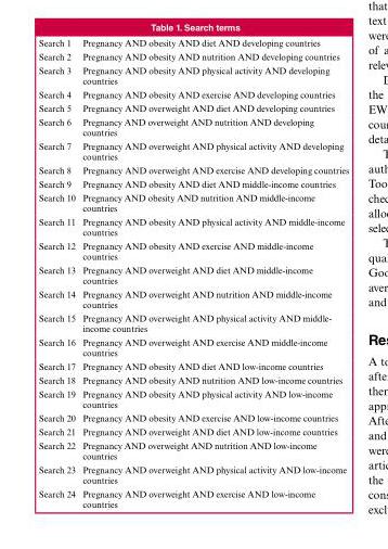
<table><tbody><tr><td>Search 1</td><td>Pregnancy AND obesity AND diet AND developing countries</td></tr><tr><td>Search 2</td><td>Pregnancy AND obesity AND nutrition AND developing countries</td></tr><tr><td>Search 3</td><td>Pregnancy AND obesity AND physical activity AND developing countries</td></tr><tr><td>Search 4</td><td>Pregnancy AND obesity AND exercise AND developing countries</td></tr><tr><td>Search 5</td><td>Pregnancy AND overweight AND diet AND developing countries</td></tr><tr><td>Search 6</td><td>Pregnancy AND overweight AND nutrition AND developing countries</td></tr><tr><td>Search 7</td><td>Pregnancy AND overweight AND physical activity AND developing countries</td></tr><tr><td>Search 8</td><td>Pregnancy AND overweight AND exercise AND developing countries</td></tr><tr><td>Search 9</td><td>Pregnancy AND obesity AND diet AND middle-income countries</td></tr><tr><td>Search 10</td><td>Pregnancy AND obesity AND nutrition AND middle-income countries</td></tr><tr><td>Search 11</td><td>Pregnancy AND obesity AND physical activity AND middle-income countries</td></tr><tr><td>Search 12</td><td>Pregnancy AND obesity AND exercise AND middle-income countries</td></tr><tr><td>Search 13</td><td>Pregnancy AND overweight AND diet AND middle-income countries</td></tr><tr><td>Search 14</td><td>Pregnancy AND overweight AND nutrition AND middle-income countries</td></tr><tr><td>Search 15</td><td>Pregnancy AND overweight AND physical activity AND middle- income countries</td></tr><tr><td>Search 16</td><td>Pregnancy AND overweight AND exercise AND middle-income countries</td></tr><tr><td>Search 17</td><td>Pregnancy AND obesity AND diet AND low-income countries</td></tr><tr><td>Search 18</td><td>Pregnancy AND obesity AND nutrition AND low-income countries</td></tr><tr><td>Search 19</td><td>Pregnancy AND obesity AND physical activity AND low-income countries</td></tr><tr><td>Search 20</td><td>Pregnancy AND obesity AND exercise AND low-income countries</td></tr><tr><td>Search 21</td><td>Pregnancy AND overweight AND diet AND low-income countries</td></tr><tr><td>Search 22</td><td>Pregnancy AND overweight AND nutrition AND low-income countries</td></tr><tr><td>Search 23</td><td>Pregnancy AND overweight AND physical activity AND low-income countries</td></tr><tr><td>Search 24</td><td>Pregnancy AND overweight AND exercise AND low-income countries</td></tr></tbody></table>